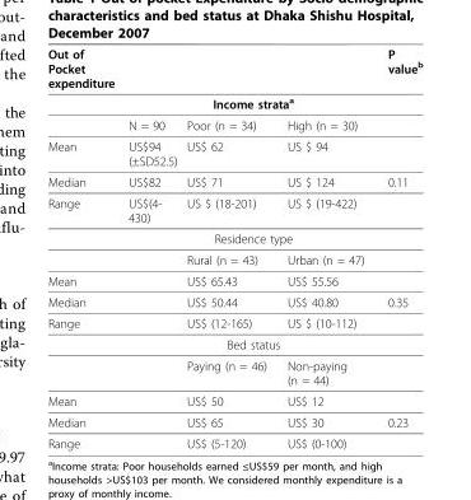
<table><thead><tr><td>Out of Pocket expenditure</td><td></td><td></td><td></td><td>P value<sup>b</sup></td></tr></thead><tbody><tr><td></td><td colspan="3">Income strata<sup>a</sup></td><td></td></tr><tr><td></td><td>N = 90</td><td>Poor (n = 34)</td><td>High (n = 30)</td><td></td></tr><tr><td>Mean</td><td>US$94 (±SD52.5)</td><td>US$ 62</td><td>US $ 94</td><td></td></tr><tr><td>Median</td><td>US$82</td><td>US$ 71</td><td>US $ 124</td><td>0.11</td></tr><tr><td rowspan="3">Range</td><td>US$(4- 430)</td><td>US $ (18-201)</td><td>US $ (19-422)</td><td></td></tr><tr><td colspan="3">Residence type</td><td></td></tr><tr><td></td><td>Rural (n = 43)</td><td>Urban (n = 47)</td><td></td></tr><tr><td>Mean</td><td></td><td>US$ 65.43</td><td>US$ 55.56</td><td></td></tr><tr><td>Median</td><td></td><td>US$ 50.44</td><td>US$ 40.80</td><td>0.35</td></tr><tr><td rowspan="3">Range</td><td></td><td>US$ (12-165)</td><td>US $ (10-112)</td><td></td></tr><tr><td colspan="3">Bed status</td><td></td></tr><tr><td></td><td>Paying (n = 46)</td><td>Non-paying (n = 44)</td><td></td></tr><tr><td>Mean</td><td></td><td>US$ 50</td><td>US$ 12</td><td></td></tr><tr><td>Median</td><td></td><td>US$ 65</td><td>US$ 30</td><td>0.23</td></tr><tr><td>Range</td><td></td><td>US$ (5-120)</td><td>US$ (0-100)</td><td></td></tr></tbody></table>